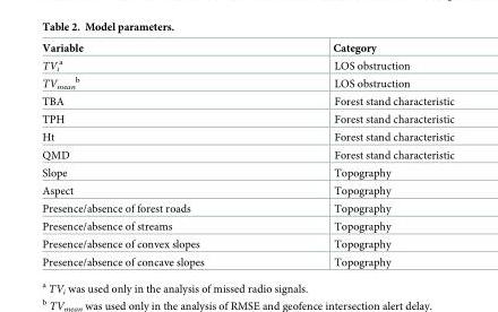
<table><thead><tr><td>Variable</td><td>Category</td></tr></thead><tbody><tr><td>TV<sub>i</sub> <sup>a</sup></td><td>LOS obstruction</td></tr><tr><td>TV<sub>mean</sub> <sup>b</sup></td><td>LOS obstruction</td></tr><tr><td>TBA</td><td>Forest stand characteristic</td></tr><tr><td>TPH</td><td>Forest stand characteristic</td></tr><tr><td>Ht</td><td>Forest stand characteristic</td></tr><tr><td>QMD</td><td>Forest stand characteristic</td></tr><tr><td>Slope</td><td>Topography</td></tr><tr><td>Aspect</td><td>Topography</td></tr><tr><td>Presence/absence of forest roads</td><td>Topography</td></tr><tr><td>Presence/absence of streams</td><td>Topography</td></tr><tr><td>Presence/absence of convex slopes</td><td>Topography</td></tr><tr><td>Presence/absence of concave slopes</td><td>Topography</td></tr></tbody></table>